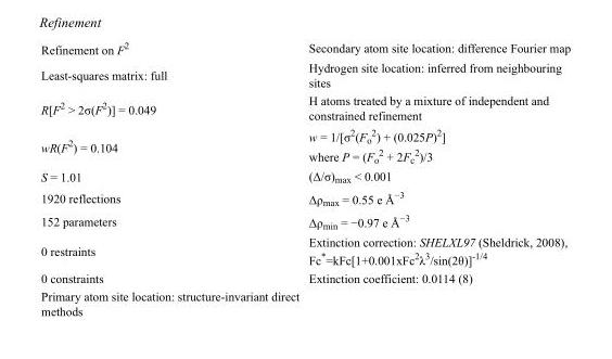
<table><tbody><tr><td>Refinement on F<sup>2</sup></td><td>Secondary atom site location: difference Fourier map</td></tr><tr><td>Least-squares matrix: full</td><td>Hydrogen site location: inferred from neighbouring sites</td></tr><tr><td>R[F<sup>2</sup> &gt; 2σ(F<sup>2</sup>)] = 0.049</td><td>H atoms treated by a mixture of independent and constrained refinement</td></tr><tr><td>wR(F<sup>2</sup>) = 0.104</td><td>w = 1/[σ<sup>2</sup>(F<sub>o</sub> <sup>2</sup>) + (0.025P)<sup>2</sup>] where P = (F<sub>o</sub> <sup>2</sup> + 2F<sub>c</sub> <sup>2</sup>)/3</td></tr><tr><td>S = 1.01</td><td>(Δ/σ)<sub>max</sub> &lt; 0.001</td></tr><tr><td>1920 reflections</td><td>Δρ<sub>max</sub> = 0.55 e Å<sup>−3</sup></td></tr><tr><td>152 parameters</td><td>Δρ<sub>min</sub> = −0.97 e Å<sup>−3</sup></td></tr><tr><td>0 restraints</td><td>Extinction correction: SHELXL97 (Sheldrick, 2008), Fc*=kFc[1+0.001xFc<sup>2</sup>λ<sup>3</sup>/sin(2θ)]<sup>-1/4</sup></td></tr><tr><td>0 constraints</td><td>Extinction coefficient: 0.0114 (8)</td></tr><tr><td>Primary atom site location: structure-invariant direct methods</td><td></td></tr></tbody></table>